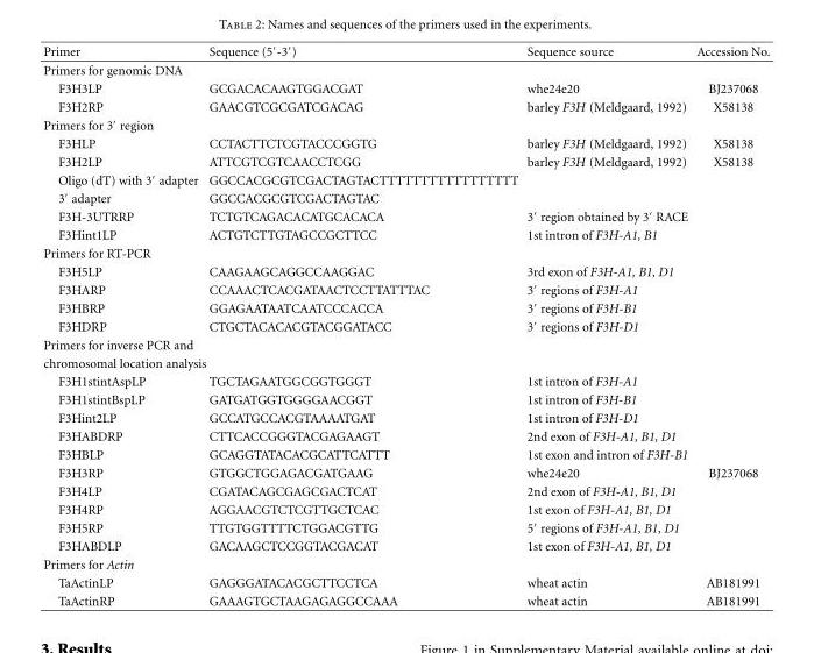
<table><thead><tr><td>Primer</td><td>Sequence (5′-3′)</td><td>Sequence source</td><td>Accession No.</td></tr></thead><tbody><tr><td colspan="4">Primers for genomic DNA</td></tr><tr><td>F3H3LP</td><td>GCGACACAAGTGGACGAT</td><td>whe24e20</td><td>BJ237068</td></tr><tr><td>F3H2RP</td><td>GAACGTCGCGATCGACAG</td><td>barley F3H (Meldgaard, 1992)</td><td>X58138</td></tr><tr><td colspan="4">Primers for 3′ region</td></tr><tr><td>F3HLP</td><td>CCTACTTCTCGTACCCGGTG</td><td>barley F3H (Meldgaard, 1992)</td><td>X58138</td></tr><tr><td>F3H2LP</td><td>ATTCGTCGTCAACCTCGG</td><td>barley F3H (Meldgaard, 1992)</td><td>X58138</td></tr><tr><td>Oligo (dT) with 3′ adapter</td><td>GGCCACGCGTCGACTAGTACTTTTTTTTTTTTTTTTT</td><td></td><td></td></tr><tr><td>3′ adapter</td><td>GGCCACGCGTCGACTAGTAC</td><td></td><td></td></tr><tr><td>F3H-3UTRRP</td><td>TCTGTCAGACACATGCACACA</td><td>3′ region obtained by 3′ RACE</td><td></td></tr><tr><td>F3Hint1LP</td><td>ACTGTCTTGTAGCCGCTTCC</td><td>1st intron of F3H-A1, B1</td><td></td></tr><tr><td colspan="4">Primers for RT-PCR</td></tr><tr><td>F3H5LP</td><td>CAAGAAGCAGGCCAAGGAC</td><td>3rd exon of F3H-A1, B1, D1</td><td></td></tr><tr><td>F3HARP</td><td>CCAAACTCACGATAACTCCTTATTTAC</td><td>3′ regions of F3H-A1</td><td></td></tr><tr><td>F3HBRP</td><td>GGAGAATAATCAATCCCACCA</td><td>3′ regions of F3H-B1</td><td></td></tr><tr><td>F3HDRP</td><td>CTGCTACACACGTACGGATACC</td><td>3′ regions of F3H-D1</td><td></td></tr><tr><td colspan="4">Primers for inverse PCR and</td></tr><tr><td colspan="4">chromosomal location analysis</td></tr><tr><td>F3H1stintAspLP</td><td>TGCTAGAATGGCGGTGGGT</td><td>1st intron of F3H-A1</td><td></td></tr><tr><td>F3H1stintBspLP</td><td>GATGATGGTGGGGAACGGT</td><td>1st intron of F3H-B1</td><td></td></tr><tr><td>F3Hint2LP</td><td>GCCATGCCACGTAAAATGAT</td><td>1st intron of F3H-D1</td><td></td></tr><tr><td>F3HABDRP</td><td>CTTCACCGGGTACGAGAAGT</td><td>2nd exon of F3H-A1, B1, D1</td><td></td></tr><tr><td>F3HBLP</td><td>GCAGGTATACACGCATTCATTT</td><td>1st exon and intron of F3H-B1</td><td></td></tr><tr><td>F3H3RP</td><td>GTGGCTGGAGACGATGAAG</td><td>whe24e20</td><td>BJ237068</td></tr><tr><td>F3H4LP</td><td>CGATACAGCGAGCGACTCAT</td><td>2nd exon of F3H-A1, B1, D1</td><td></td></tr><tr><td>F3H4RP</td><td>AGGAACGTCTCGTTGCTCAC</td><td>1st exon of F3H-A1, B1, D1</td><td></td></tr><tr><td>F3H5RP</td><td>TTGTGGTTTTCTGGACGTTG</td><td>5′ regions of F3H-A1, B1, D1</td><td></td></tr><tr><td>F3HABDLP</td><td>GACAAGCTCCGGTACGACAT</td><td>1st exon of F3H-A1, B1, D1</td><td></td></tr><tr><td colspan="4">Primers for Actin</td></tr><tr><td>TaActinLP</td><td>GAGGGATACACGCTTCCTCA</td><td>wheat actin</td><td>AB181991</td></tr><tr><td>TaActinRP</td><td>GAAAGTGCTAAGAGAGGCCAAA</td><td>wheat actin</td><td>AB181991</td></tr></tbody></table>